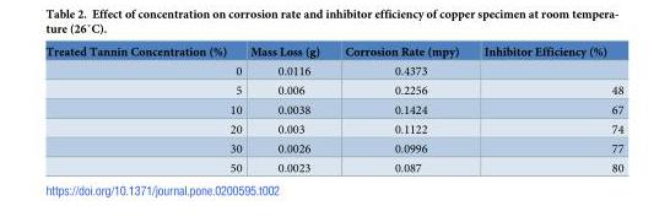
<table><thead><tr><td>Treated Tannin Concentration (%)</td><td>Mass Loss (g)</td><td>Corrosion Rate (mpy)</td><td>Inhibitor Efficiency (%)</td></tr></thead><tbody><tr><td>0</td><td>0.0116</td><td>0.4373</td><td></td></tr><tr><td>5</td><td>0.006</td><td>0.2256</td><td>48</td></tr><tr><td>10</td><td>0.0038</td><td>0.1424</td><td>67</td></tr><tr><td>20</td><td>0.003</td><td>0.1122</td><td>74</td></tr><tr><td>30</td><td>0.0026</td><td>0.0996</td><td>77</td></tr><tr><td>50</td><td>0.0023</td><td>0.087</td><td>80</td></tr></tbody></table>